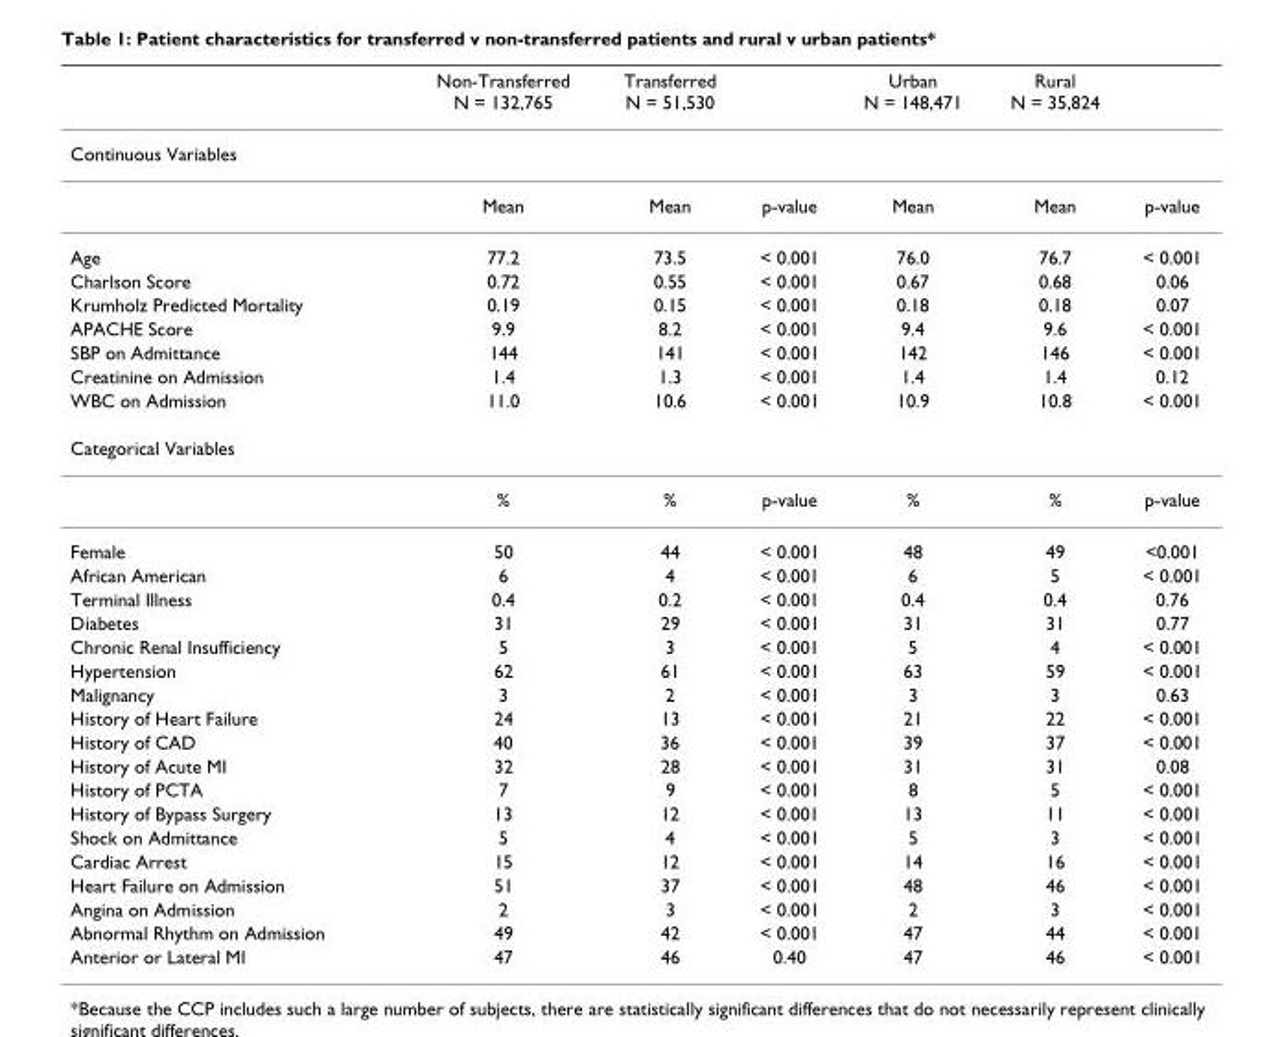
<table><thead><tr><td></td><td>Non-Transferred N = 132,765</td><td>Transferred N = 51,530</td><td></td><td>Urban N = 148,471</td><td>Rural N = 35,824</td><td></td></tr></thead><tbody><tr><td colspan="7">Continuous Variables</td></tr><tr><td></td><td>Mean</td><td>Mean</td><td>p-value</td><td>Mean</td><td>Mean</td><td>p-value</td></tr><tr><td>Age</td><td>77.2</td><td>73.5</td><td>&lt; 0.001</td><td>76.0</td><td>76.7</td><td>&lt; 0.001</td></tr><tr><td>Charlson Score</td><td>0.72</td><td>0.55</td><td>&lt; 0.001</td><td>0.67</td><td>0.68</td><td>0.06</td></tr><tr><td>Krumholz Predicted Mortality</td><td>0.19</td><td>0.15</td><td>&lt; 0.001</td><td>0.18</td><td>0.18</td><td>0.07</td></tr><tr><td>APACHE Score</td><td>9.9</td><td>8.2</td><td>&lt; 0.001</td><td>9.4</td><td>9.6</td><td>&lt; 0.001</td></tr><tr><td>SBP on Admittance</td><td>144</td><td>141</td><td>&lt; 0.001</td><td>142</td><td>146</td><td>&lt; 0.001</td></tr><tr><td>Creatinine on Admission</td><td>1.4</td><td>1.3</td><td>&lt; 0.001</td><td>1.4</td><td>1.4</td><td>0.12</td></tr><tr><td>WBC on Admission</td><td>11.0</td><td>10.6</td><td>&lt; 0.001</td><td>10.9</td><td>10.8</td><td>&lt; 0.001</td></tr><tr><td colspan="7">Categorical Variables</td></tr><tr><td></td><td>%</td><td>%</td><td>p-value</td><td>%</td><td>%</td><td>p-value</td></tr><tr><td>Female</td><td>50</td><td>44</td><td>&lt; 0.001</td><td>48</td><td>49</td><td>&lt;0.001</td></tr><tr><td>African American</td><td>6</td><td>4</td><td>&lt; 0.001</td><td>6</td><td>5</td><td>&lt; 0.001</td></tr><tr><td>Terminal Illness</td><td>0.4</td><td>0.2</td><td>&lt; 0.001</td><td>0.4</td><td>0.4</td><td>0.76</td></tr><tr><td>Diabetes</td><td>31</td><td>29</td><td>&lt; 0.001</td><td>31</td><td>31</td><td>0.77</td></tr><tr><td>Chronic Renal Insufficiency</td><td>5</td><td>3</td><td>&lt; 0.001</td><td>5</td><td>4</td><td>&lt; 0.001</td></tr><tr><td>Hypertension</td><td>62</td><td>61</td><td>&lt; 0.001</td><td>63</td><td>59</td><td>&lt; 0.001</td></tr><tr><td>Malignancy</td><td>3</td><td>2</td><td>&lt; 0.001</td><td>3</td><td>3</td><td>0.63</td></tr><tr><td>History of Heart Failure</td><td>24</td><td>13</td><td>&lt; 0.001</td><td>21</td><td>22</td><td>&lt; 0.001</td></tr><tr><td>History of CAD</td><td>40</td><td>36</td><td>&lt; 0.001</td><td>39</td><td>37</td><td>&lt; 0.001</td></tr><tr><td>History of Acute MI</td><td>32</td><td>28</td><td>&lt; 0.001</td><td>31</td><td>31</td><td>0.08</td></tr><tr><td>History of PCTA</td><td>7</td><td>9</td><td>&lt; 0.001</td><td>8</td><td>5</td><td>&lt; 0.001</td></tr><tr><td>History of Bypass Surgery</td><td>13</td><td>12</td><td>&lt; 0.001</td><td>13</td><td>11</td><td>&lt; 0.001</td></tr><tr><td>Shock on Admittance</td><td>5</td><td>4</td><td>&lt; 0.001</td><td>5</td><td>3</td><td>&lt; 0.001</td></tr><tr><td>Cardiac Arrest</td><td>15</td><td>12</td><td>&lt; 0.001</td><td>14</td><td>16</td><td>&lt; 0.001</td></tr><tr><td>Heart Failure on Admission</td><td>51</td><td>37</td><td>&lt; 0.001</td><td>48</td><td>46</td><td>&lt; 0.001</td></tr><tr><td>Angina on Admission</td><td>2</td><td>3</td><td>&lt; 0.001</td><td>2</td><td>3</td><td>&lt; 0.001</td></tr><tr><td>Abnormal Rhythm on Admission</td><td>49</td><td>42</td><td>&lt; 0.001</td><td>47</td><td>44</td><td>&lt; 0.001</td></tr><tr><td>Anterior or Lateral MI</td><td>47</td><td>46</td><td>0.40</td><td>47</td><td>46</td><td>&lt; 0.001</td></tr></tbody></table>